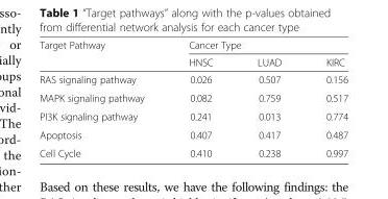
<table><thead><tr><td rowspan="2">Target Pathway</td><td colspan="3">Cancer Type</td></tr><tr><td>HNSC</td><td>LUAD</td><td>KIRC</td></tr></thead><tbody><tr><td>RAS signaling pathway</td><td>0.026</td><td>0.507</td><td>0.156</td></tr><tr><td>MAPK signaling pathway</td><td>0.082</td><td>0.759</td><td>0.517</td></tr><tr><td>PI3K signaling pathway</td><td>0.241</td><td>0.013</td><td>0.774</td></tr><tr><td>Apoptosis</td><td>0.407</td><td>0.417</td><td>0.487</td></tr><tr><td>Cell Cycle</td><td>0.410</td><td>0.238</td><td>0.997</td></tr></tbody></table>